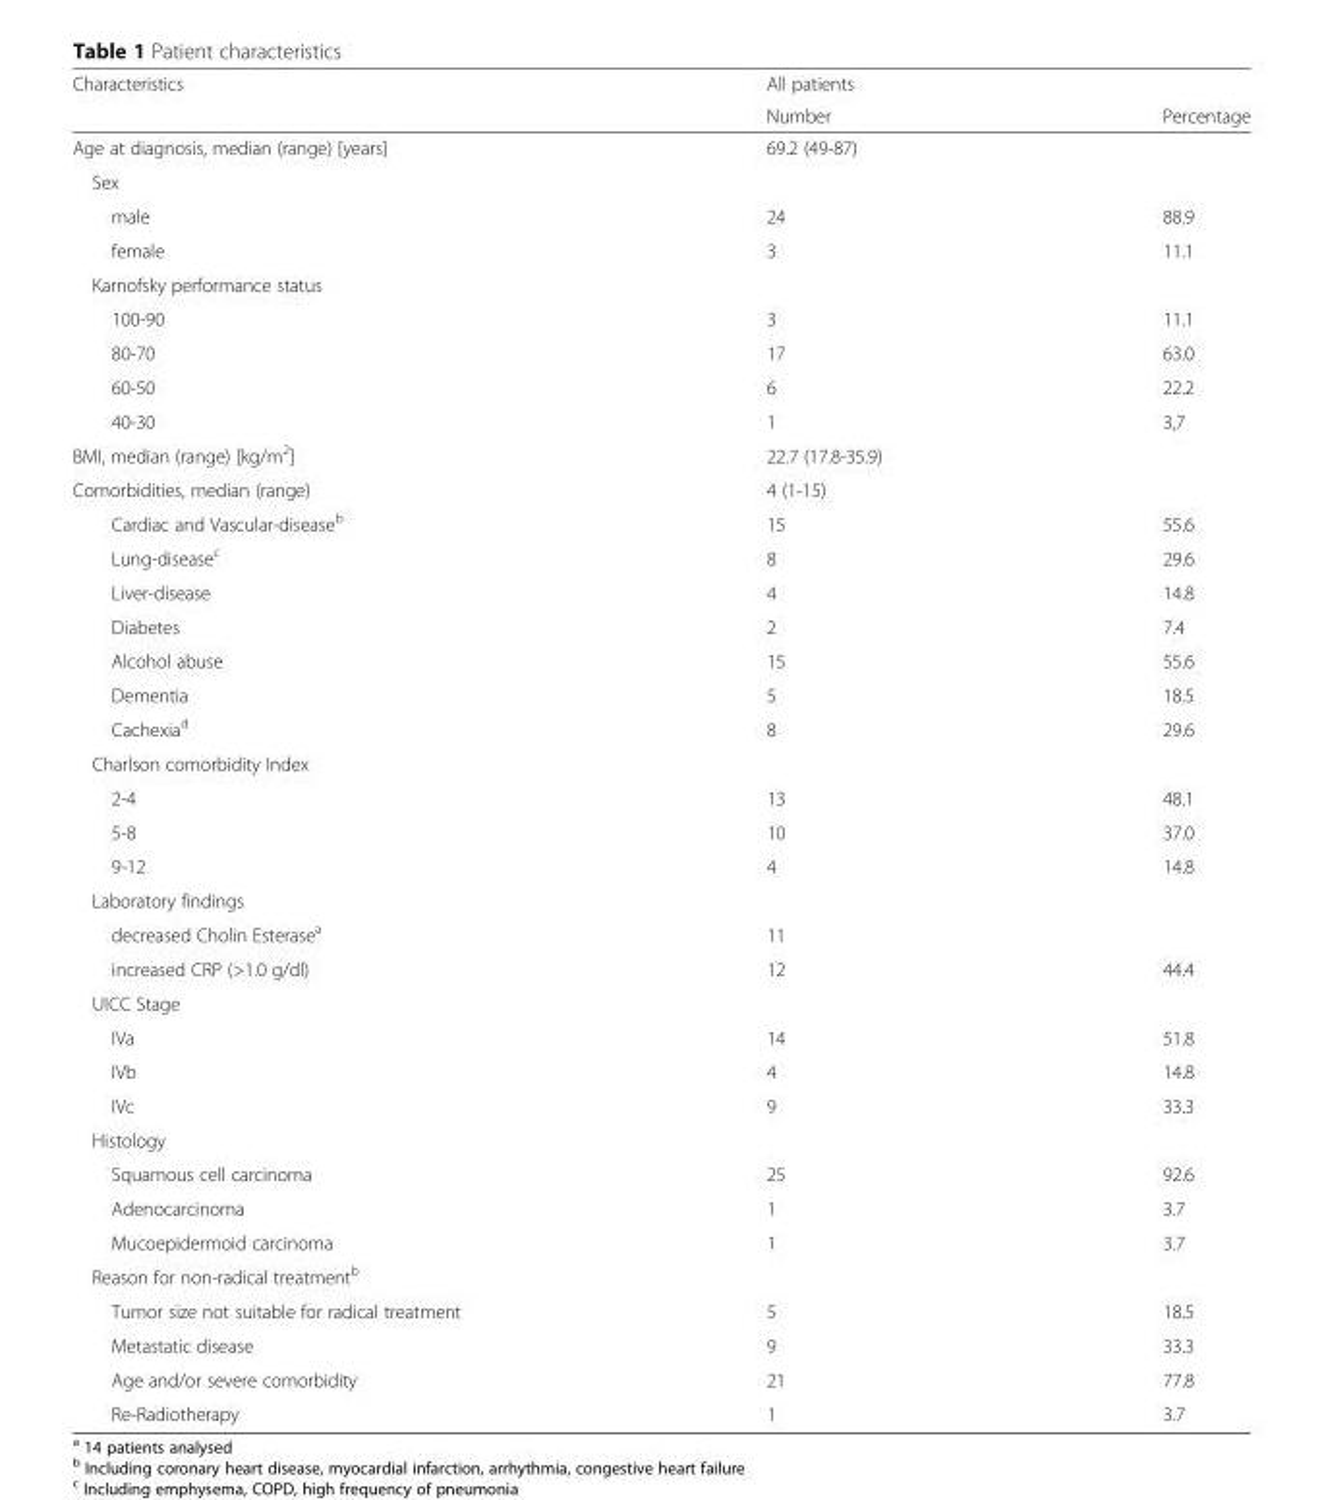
<table><thead><tr><td rowspan="2">Characteristics</td><td rowspan="2">All patients Number</td><td rowspan="2">Percentage</td></tr><tr></tr></thead><tbody><tr><td>Age at diagnosis, median (range) [years]</td><td>69.2 (49-87)</td><td></td></tr><tr><td colspan="3">Sex</td></tr><tr><td>male</td><td>24</td><td>88.9</td></tr><tr><td>female</td><td>3</td><td>11.1</td></tr><tr><td colspan="3">Karnofsky performance status</td></tr><tr><td>100-90</td><td>3</td><td>11.1</td></tr><tr><td>80-70</td><td>17</td><td>63.0</td></tr><tr><td>60-50</td><td>6</td><td>22.2</td></tr><tr><td>40-30</td><td>1</td><td>3,7</td></tr><tr><td>BMI, median (range) [kg/m<sup>2</sup>]</td><td colspan="2">22.7 (17.8-35.9)</td></tr><tr><td>Comorbidities, median (range)</td><td>4 (1-15)</td><td></td></tr><tr><td>Cardiac and Vascular-disease<sup>b</sup></td><td>15</td><td>55.6</td></tr><tr><td>Lung-disease<sup>c</sup></td><td>8</td><td>29.6</td></tr><tr><td>Liver-disease</td><td>4</td><td>14.8</td></tr><tr><td>Diabetes</td><td>2</td><td>7.4</td></tr><tr><td>Alcohol abuse</td><td>15</td><td>55.6</td></tr><tr><td>Dementia</td><td>5</td><td>18.5</td></tr><tr><td>Cachexia<sup>d</sup></td><td>8</td><td>29.6</td></tr><tr><td colspan="3">Charlson comorbidity Index</td></tr><tr><td>2-4</td><td>13</td><td>48.1</td></tr><tr><td>5-8</td><td>10</td><td>37.0</td></tr><tr><td>9-12</td><td>4</td><td>14.8</td></tr><tr><td colspan="3">Laboratory findings</td></tr><tr><td>decreased Cholin Esterase<sup>a</sup></td><td>11</td><td></td></tr><tr><td>increased CRP (&gt;1.0 g/dl)</td><td>12</td><td>44.4</td></tr><tr><td colspan="3">UICC Stage</td></tr><tr><td>IVa</td><td>14</td><td>51.8</td></tr><tr><td>IVb</td><td>4</td><td>14.8</td></tr><tr><td>IVc</td><td>9</td><td>33.3</td></tr><tr><td colspan="3">Histology</td></tr><tr><td>Squamous cell carcinoma</td><td>25</td><td>92.6</td></tr><tr><td>Adenocarcinoma</td><td>1</td><td>3.7</td></tr><tr><td>Mucoepidermoid carcinoma</td><td>1</td><td>3.7</td></tr><tr><td colspan="3">Reason for non-radical treatment<sup>b</sup></td></tr><tr><td>Tumor size not suitable for radical treatment</td><td>5</td><td>18.5</td></tr><tr><td>Metastatic disease</td><td>9</td><td>33.3</td></tr><tr><td>Age and/or severe comorbidity</td><td>21</td><td>77.8</td></tr><tr><td>Re-Radiotherapy</td><td>1</td><td>3.7</td></tr></tbody></table>